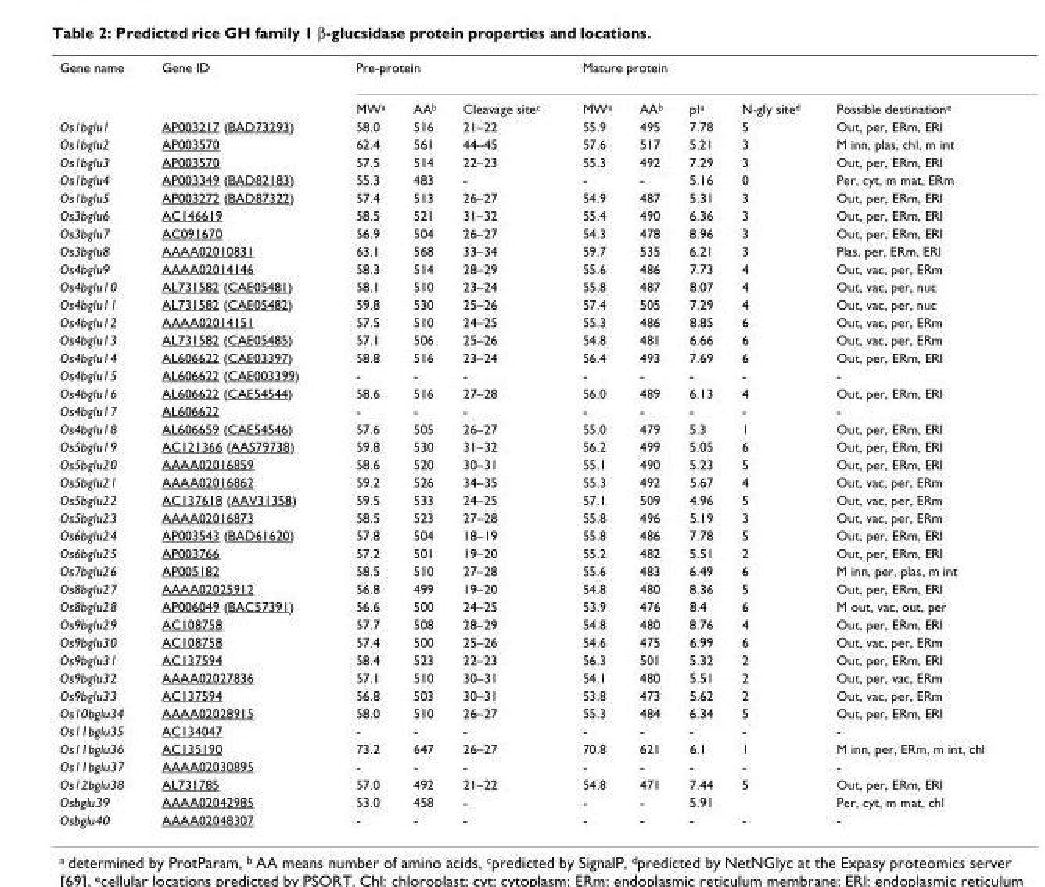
<table><tbody><tr><td rowspan="2">Gene name</td><td>Gene ID</td><td colspan="3">Pre-protein</td><td colspan="5">Mature protein</td></tr><tr><td></td><td>MWa</td><td>AAb</td><td>Cleavage sitec</td><td>MWa</td><td>AAb</td><td>pIa</td><td>N-gly sited</td><td>Possible destinatione</td></tr><tr><td>Os1bglu1</td><td>AP003217 (BAD73293)</td><td>58.0</td><td>516</td><td>21–22</td><td>55.9</td><td>495</td><td>7.78</td><td>5</td><td>Out, per, ERm, ERl</td></tr><tr><td>Os1bglu2</td><td>AP003570</td><td>62.4</td><td>561</td><td>44–45</td><td>57.6</td><td>517</td><td>5.21</td><td>3</td><td>M inn, plas, chl, m int</td></tr><tr><td>Os1bglu3</td><td>AP003570</td><td>57.5</td><td>514</td><td>22–23</td><td>55.3</td><td>492</td><td>7.29</td><td>3</td><td>Out, per, ERm, ERl</td></tr><tr><td>Os1bglu4</td><td>AP003349 (BAD82183)</td><td>55.3</td><td>483</td><td>-</td><td>-</td><td>-</td><td>5.16</td><td>0</td><td>Per, cyt, m mat, ERm</td></tr><tr><td>Os1bglu5</td><td>AP003272 (BAD87322)</td><td>57.4</td><td>513</td><td>26–27</td><td>54.9</td><td>487</td><td>5.31</td><td>3</td><td>Out, per, ERm, ERl</td></tr><tr><td>Os3bglu6</td><td>AC146619</td><td>58.5</td><td>521</td><td>31–32</td><td>55.4</td><td>490</td><td>6.36</td><td>3</td><td>Out, per, ERm, ERl</td></tr><tr><td>Os3bglu7</td><td>AC091670</td><td>56.9</td><td>504</td><td>26–27</td><td>54.3</td><td>478</td><td>8.96</td><td>3</td><td>Out, per, ERm, ERl</td></tr><tr><td>Os3bglu8</td><td>AAAA02010831</td><td>63.1</td><td>568</td><td>33–34</td><td>59.7</td><td>535</td><td>6.21</td><td>3</td><td>Plas, per, ERm, ERl</td></tr><tr><td>Os4bglu9</td><td>AAAA02014146</td><td>58.3</td><td>514</td><td>28–29</td><td>55.6</td><td>486</td><td>7.73</td><td>4</td><td>Out, vac, per, ERm</td></tr><tr><td>Os4bglu10</td><td>AL731582 (CAE05481)</td><td>58.1</td><td>510</td><td>23–24</td><td>55.8</td><td>487</td><td>8.07</td><td>4</td><td>Out, vac, per, nuc</td></tr><tr><td>Os4bglu11</td><td>AL731582 (CAE05482)</td><td>59.8</td><td>530</td><td>25–26</td><td>57.4</td><td>505</td><td>7.29</td><td>4</td><td>Out, vac, per, nuc</td></tr><tr><td>Os4bglu12</td><td>AAAA02014151</td><td>57.5</td><td>510</td><td>24–25</td><td>55.3</td><td>486</td><td>8.85</td><td>6</td><td>Out, vac, per, ERm</td></tr><tr><td>Os4bglu13</td><td>AL731582 (CAE05485)</td><td>57.1</td><td>506</td><td>25–26</td><td>54.8</td><td>481</td><td>6.66</td><td>6</td><td>Out, vac, per, ERm</td></tr><tr><td>Os4bglu14</td><td>AL606622 (CAE03397)</td><td>58.8</td><td>516</td><td>23–24</td><td>56.4</td><td>493</td><td>7.69</td><td>6</td><td>Out, per, ERm, ERl</td></tr><tr><td>Os4bglu15</td><td>AL606622 (CAE003399)</td><td>-</td><td>-</td><td>-</td><td>-</td><td>-</td><td>-</td><td>-</td><td>-</td></tr><tr><td>Os4bglu16</td><td>AL606622 (CAE54544)</td><td>58.6</td><td>516</td><td>27–28</td><td>56.0</td><td>489</td><td>6.13</td><td>4</td><td>Out, per, ERm, ERl</td></tr><tr><td>Os4bglu17</td><td>AL606622</td><td>-</td><td>-</td><td>-</td><td>-</td><td>-</td><td>-</td><td>-</td><td>-</td></tr><tr><td>Os4bglu18</td><td>AL606659 (CAE54546)</td><td>57.6</td><td>505</td><td>26–27</td><td>55.0</td><td>479</td><td>5.3</td><td>1</td><td>Out, per, ERm, ERl</td></tr><tr><td>Os5bglu19</td><td>AC121366 (AAS79738)</td><td>59.8</td><td>530</td><td>31–32</td><td>56.2</td><td>499</td><td>5.05</td><td>6</td><td>Out, per, ERm, ERl</td></tr><tr><td>Os5bglu20</td><td>AAAA02016859</td><td>58.6</td><td>520</td><td>30–31</td><td>55.1</td><td>490</td><td>5.23</td><td>5</td><td>Out, per, ERm, ERl</td></tr><tr><td>Os5bglu21</td><td>AAAA02016862</td><td>59.2</td><td>526</td><td>34–35</td><td>55.3</td><td>492</td><td>5.67</td><td>4</td><td>Out, vac, per, ERm</td></tr><tr><td>Os5bglu22</td><td>AC137618 (AAV31358)</td><td>59.5</td><td>533</td><td>24–25</td><td>57.1</td><td>509</td><td>4.96</td><td>5</td><td>Out, vac, per, ERm</td></tr><tr><td>Os5bglu23</td><td>AAAA02016873</td><td>58.5</td><td>523</td><td>27–28</td><td>55.8</td><td>496</td><td>5.19</td><td>3</td><td>Out, vac, per, ERm</td></tr><tr><td>Os6bglu24</td><td>AP003543 (BAD61620)</td><td>57.8</td><td>504</td><td>18–19</td><td>55.8</td><td>486</td><td>7.78</td><td>5</td><td>Out, per, ERm, ERl</td></tr><tr><td>Os6bglu25</td><td>AP003766</td><td>57.2</td><td>501</td><td>19–20</td><td>55.2</td><td>482</td><td>5.51</td><td>2</td><td>Out, per, ERm, ERl</td></tr><tr><td>Os7bglu26</td><td>AP005182</td><td>58.5</td><td>510</td><td>27–28</td><td>55.6</td><td>483</td><td>6.49</td><td>6</td><td>M inn, per, plas, m int</td></tr><tr><td>Os8bglu27</td><td>AAAA02025912</td><td>56.8</td><td>499</td><td>19–20</td><td>54.8</td><td>480</td><td>8.36</td><td>5</td><td>Out, per, ERm, ERl</td></tr><tr><td>Os8bglu28</td><td>AP006049 (BAC57391)</td><td>56.6</td><td>500</td><td>24–25</td><td>53.9</td><td>476</td><td>8.4</td><td>6</td><td>M out, vac, out, per</td></tr><tr><td>Os9bglu29</td><td>AC108758</td><td>57.7</td><td>508</td><td>28–29</td><td>54.8</td><td>480</td><td>8.76</td><td>4</td><td>Out, per, ERm, ERl</td></tr><tr><td>Os9bglu30</td><td>AC108758</td><td>57.4</td><td>500</td><td>25–26</td><td>54.6</td><td>475</td><td>6.99</td><td>6</td><td>Out, vac, per, ERm</td></tr><tr><td>Os9bglu31</td><td>AC137594</td><td>58.4</td><td>523</td><td>22–23</td><td>56.3</td><td>501</td><td>5.32</td><td>2</td><td>Out, per, ERm, ERl</td></tr><tr><td>Os9bglu32</td><td>AAAA02027836</td><td>57.1</td><td>510</td><td>30–31</td><td>54.1</td><td>480</td><td>5.51</td><td>2</td><td>Out, per, vac, ERm</td></tr><tr><td>Os9bglu33</td><td>AC137594</td><td>56.8</td><td>503</td><td>30–31</td><td>53.8</td><td>473</td><td>5.62</td><td>2</td><td>Out, vac, per, ERm</td></tr><tr><td>Os10bglu34</td><td>AAAA02028915</td><td>58.0</td><td>510</td><td>26–27</td><td>55.3</td><td>484</td><td>6.34</td><td>5</td><td>Out, per, ERm, ERl</td></tr><tr><td>Os11bglu35</td><td>AC134047</td><td>-</td><td>-</td><td>-</td><td>-</td><td>-</td><td>-</td><td>-</td><td>-</td></tr><tr><td>Os11bglu36</td><td>AC135190</td><td>73.2</td><td>647</td><td>26–27</td><td>70.8</td><td>621</td><td>6.1</td><td>1</td><td>M inn, per, ERm, m int, chl</td></tr><tr><td>Os11bglu37</td><td>AAAA02030895</td><td>-</td><td>-</td><td>-</td><td>-</td><td>-</td><td>-</td><td>-</td><td>-</td></tr><tr><td>Os12bglu38</td><td>AL731785</td><td>57.0</td><td>492</td><td>21–22</td><td>54.8</td><td>471</td><td>7.44</td><td>5</td><td>Out, per, ERm, ERl</td></tr><tr><td>Osbglu39</td><td>AAAA02042985</td><td>53.0</td><td>458</td><td>-</td><td>-</td><td>-</td><td>5.91</td><td></td><td>Per, cyt, m mat, chl</td></tr><tr><td>Osbglu40</td><td>AAAA02048307</td><td>-</td><td>-</td><td>-</td><td>-</td><td>-</td><td>-</td><td>-</td><td>-</td></tr></tbody></table>